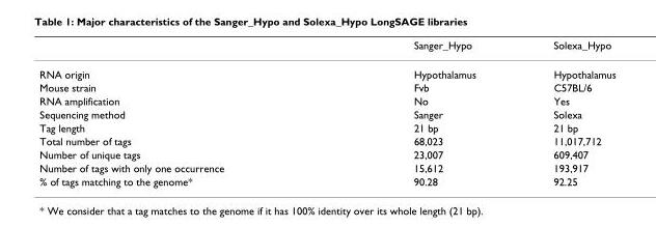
<table><thead><tr><td></td><td>Sanger_Hypo</td><td>Solexa_Hypo</td></tr></thead><tbody><tr><td>RNA origin</td><td>Hypothalamus</td><td>Hypothalamus</td></tr><tr><td>Mouse strain</td><td>Fvb</td><td>C57BL/6</td></tr><tr><td>RNA amplification</td><td>No</td><td>Yes</td></tr><tr><td>Sequencing method</td><td>Sanger</td><td>Solexa</td></tr><tr><td>Tag length</td><td>21 bp</td><td>21 bp</td></tr><tr><td>Total number of tags</td><td>68,023</td><td>11,017,712</td></tr><tr><td>Number of unique tags</td><td>23,007</td><td>609,407</td></tr><tr><td>Number of tags with only one occurrence</td><td>15,612</td><td>193,917</td></tr><tr><td>% of tags matching to the genome*</td><td>90.28</td><td>92.25</td></tr></tbody></table>